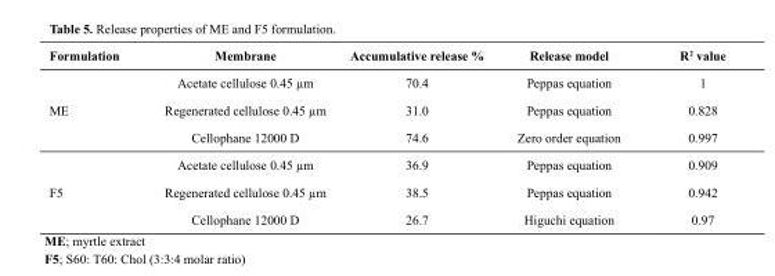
<table><thead><tr><td>Formulation</td><td>Membrane</td><td>Accumulative release %</td><td>Release model</td><td>R<sup>2</sup> value</td></tr></thead><tbody><tr><td rowspan="3">ME</td><td>Acetate cellulose 0.45 µm</td><td>70.4</td><td>Peppas equation</td><td>1</td></tr><tr><td>Regenerated cellulose 0.45 µm</td><td>31.0</td><td>Peppas equation</td><td>0.828</td></tr><tr><td>Cellophane 12000 D</td><td>74.6</td><td>Zero order equation</td><td>0.997</td></tr><tr><td rowspan="3">F5</td><td>Acetate cellulose 0.45 µm</td><td>36.9</td><td>Peppas equation</td><td>0.909</td></tr><tr><td>Regenerated cellulose 0.45 µm</td><td>38.5</td><td>Peppas equation</td><td>0.942</td></tr><tr><td>Cellophane 12000 D</td><td>26.7</td><td>Higuchi equation</td><td>0.97</td></tr></tbody></table>